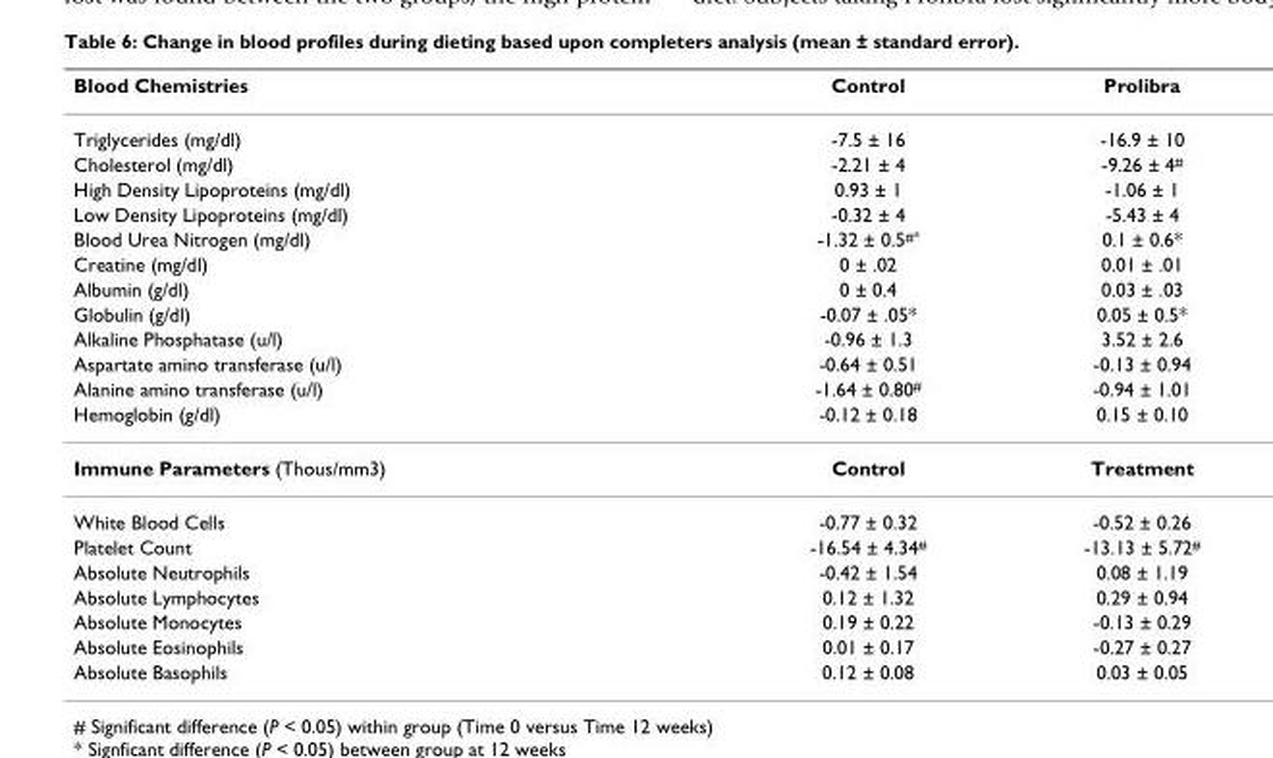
<table><thead><tr><td>Blood Chemistries</td><td>Control</td><td>Prolibra</td></tr></thead><tbody><tr><td>Triglycerides (mg/dl)</td><td>-7.5 ± 16</td><td>-16.9 ± 10</td></tr><tr><td>Cholesterol (mg/dl)</td><td>-2.21 ± 4</td><td>-9.26 ± 4<sup>#</sup></td></tr><tr><td>High Density Lipoproteins (mg/dl)</td><td>0.93 ± 1</td><td>-1.06 ± 1</td></tr><tr><td>Low Density Lipoproteins (mg/dl)</td><td>-0.32 ± 4</td><td>-5.43 ± 4</td></tr><tr><td>Blood Urea Nitrogen (mg/dl)</td><td>-1.32 ± 0.5<sup>#*</sup></td><td>0.1 ± 0.6*</td></tr><tr><td>Creatine (mg/dl)</td><td>0 ± .02</td><td>0.01 ± .01</td></tr><tr><td>Albumin (g/dl)</td><td>0 ± 0.4</td><td>0.03 ± .03</td></tr><tr><td>Globulin (g/dl)</td><td>-0.07 ± .05*</td><td>0.05 ± 0.5*</td></tr><tr><td>Alkaline Phosphatase (u/l)</td><td>-0.96 ± 1.3</td><td>3.52 ± 2.6</td></tr><tr><td>Aspartate amino transferase (u/l)</td><td>-0.64 ± 0.51</td><td>-0.13 ± 0.94</td></tr><tr><td>Alanine amino transferase (u/l)</td><td>-1.64 ± 0.80<sup>#</sup></td><td>-0.94 ± 1.01</td></tr><tr><td>Hemoglobin (g/dl)</td><td>-0.12 ± 0.18</td><td>0.15 ± 0.10</td></tr><tr><td>Immune Parameters (Thous/mm3)</td><td>Control</td><td>Treatment</td></tr><tr><td>White Blood Cells</td><td>-0.77 ± 0.32</td><td>-0.52 ± 0.26</td></tr><tr><td>Platelet Count</td><td>-16.54 ± 4.34<sup>#</sup></td><td>-13.13 ± 5.72<sup>#</sup></td></tr><tr><td>Absolute Neutrophils</td><td>-0.42 ± 1.54</td><td>0.08 ± 1.19</td></tr><tr><td>Absolute Lymphocytes</td><td>0.12 ± 1.32</td><td>0.29 ± 0.94</td></tr><tr><td>Absolute Monocytes</td><td>0.19 ± 0.22</td><td>-0.13 ± 0.29</td></tr><tr><td>Absolute Eosinophils</td><td>0.01 ± 0.17</td><td>-0.27 ± 0.27</td></tr><tr><td>Absolute Basophils</td><td>0.12 ± 0.08</td><td>0.03 ± 0.05</td></tr></tbody></table>